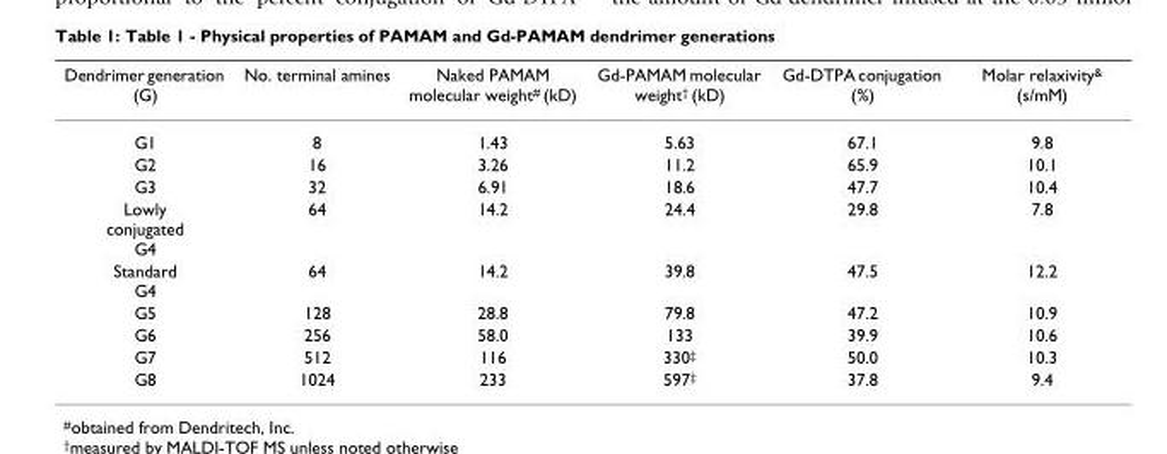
<table><thead><tr><td>Dendrimer generation (G)</td><td>No. terminal amines</td><td>Naked PAMAM molecular weight<sup>#</sup> (kD)</td><td>Gd-PAMAM molecular weight<sup>†</sup> (kD)</td><td>Gd-DTPA conjugation (%)</td><td>Molar relaxivity<sup>&amp;</sup> (s/mM)</td></tr></thead><tbody><tr><td>G1</td><td>8</td><td>1.43</td><td>5.63</td><td>67.1</td><td>9.8</td></tr><tr><td>G2</td><td>16</td><td>3.26</td><td>11.2</td><td>65.9</td><td>10.1</td></tr><tr><td>G3</td><td>32</td><td>6.91</td><td>18.6</td><td>47.7</td><td>10.4</td></tr><tr><td>Lowly conjugated G4</td><td>64</td><td>14.2</td><td>24.4</td><td>29.8</td><td>7.8</td></tr><tr><td>Standard G4</td><td>64</td><td>14.2</td><td>39.8</td><td>47.5</td><td>12.2</td></tr><tr><td>G5</td><td>128</td><td>28.8</td><td>79.8</td><td>47.2</td><td>10.9</td></tr><tr><td>G6</td><td>256</td><td>58.0</td><td>133</td><td>39.9</td><td>10.6</td></tr><tr><td>G7</td><td>512</td><td>116</td><td>330<sup>‡</sup></td><td>50.0</td><td>10.3</td></tr><tr><td>G8</td><td>1024</td><td>233</td><td>597<sup>‡</sup></td><td>37.8</td><td>9.4</td></tr></tbody></table>